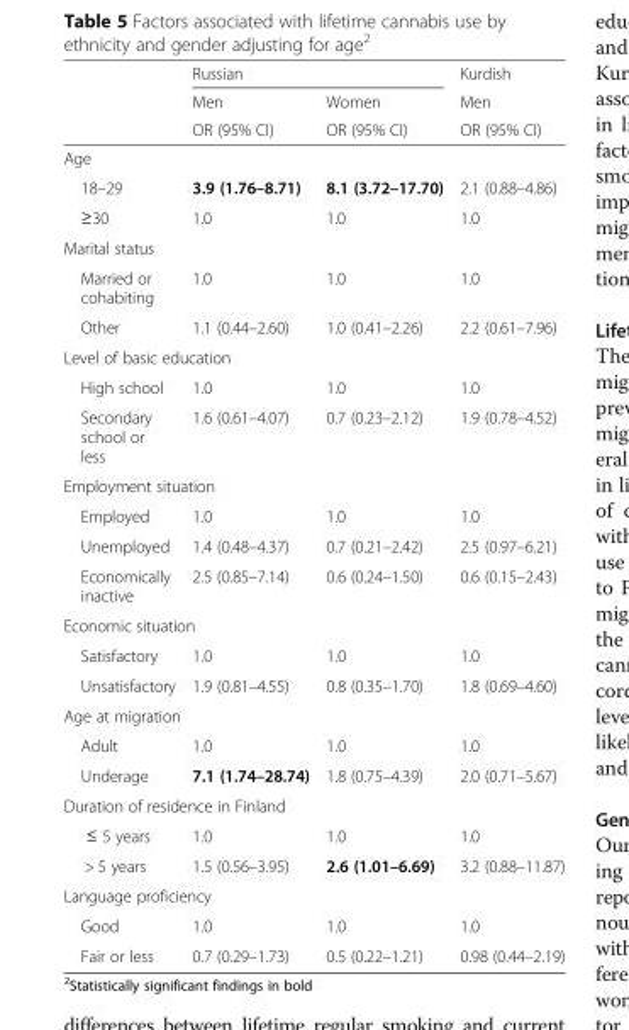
<table><thead><tr><td rowspan="3"></td><td colspan="2">Russian</td><td rowspan="3">Kurdish Men OR (95% CI)</td></tr><tr><td rowspan="2">Men OR (95% CI)</td><td rowspan="2">Women OR (95% CI)</td></tr><tr></tr></thead><tbody><tr><td colspan="4">Age</td></tr><tr><td>18–29</td><td>3.9 (1.76–8.71)</td><td>8.1 (3.72–17.70)</td><td>2.1 (0.88–4.86)</td></tr><tr><td>≥30</td><td>1.0</td><td>1.0</td><td>1.0</td></tr><tr><td colspan="4">Marital status</td></tr><tr><td>Married or cohabiting</td><td>1.0</td><td>1.0</td><td>1.0</td></tr><tr><td>Other</td><td>1.1 (0.44–2.60)</td><td>1.0 (0.41–2.26)</td><td>2.2 (0.61–7.96)</td></tr><tr><td colspan="4">Level of basic education</td></tr><tr><td>High school</td><td>1.0</td><td>1.0</td><td>1.0</td></tr><tr><td>Secondary school or less</td><td>1.6 (0.61–4.07)</td><td>0.7 (0.23–2.12)</td><td>1.9 (0.78–4.52)</td></tr><tr><td colspan="4">Employment situation</td></tr><tr><td>Employed</td><td>1.0</td><td>1.0</td><td>1.0</td></tr><tr><td>Unemployed</td><td>1.4 (0.48–4.37)</td><td>0.7 (0.21–2.42)</td><td>2.5 (0.97–6.21)</td></tr><tr><td>Economically inactive</td><td>2.5 (0.85–7.14)</td><td>0.6 (0.24–1.50)</td><td>0.6 (0.15–2.43)</td></tr><tr><td colspan="4">Economic situation</td></tr><tr><td>Satisfactory</td><td>1.0</td><td>1.0</td><td>1.0</td></tr><tr><td>Unsatisfactory</td><td>1.9 (0.81–4.55)</td><td>0.8 (0.35–1.70)</td><td>1.8 (0.69–4.60)</td></tr><tr><td colspan="4">Age at migration</td></tr><tr><td>Adult</td><td>1.0</td><td>1.0</td><td>1.0</td></tr><tr><td>Underage</td><td>7.1 (1.74–28.74)</td><td>1.8 (0.75–4.39)</td><td>2.0 (0.71–5.67)</td></tr><tr><td colspan="4">Duration of residence in Finland</td></tr><tr><td>≤ 5 years</td><td>1.0</td><td>1.0</td><td>1.0</td></tr><tr><td>&gt; 5 years</td><td>1.5 (0.56–3.95)</td><td>2.6 (1.01–6.69)</td><td>3.2 (0.88–11.87)</td></tr><tr><td colspan="4">Language proficiency</td></tr><tr><td>Good</td><td>1.0</td><td>1.0</td><td>1.0</td></tr><tr><td>Fair or less</td><td>0.7 (0.29–1.73)</td><td>0.5 (0.22–1.21)</td><td>0.98 (0.44–2.19)</td></tr></tbody></table>